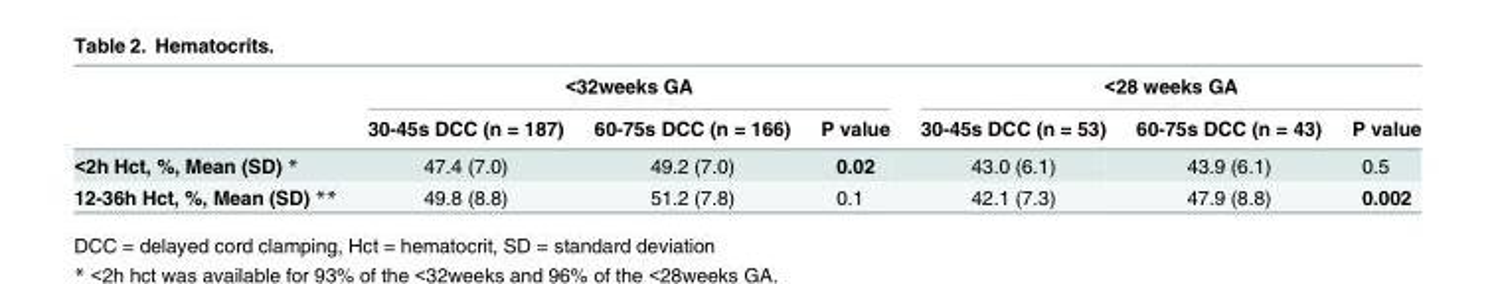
<table><thead><tr><td rowspan="2"></td><td colspan="3">&lt;32weeks GA</td><td colspan="3">&lt;28 weeks GA</td></tr><tr><td>30-45s DCC (n = 187)</td><td>60-75s DCC (n = 166)</td><td>P value</td><td>30-45s DCC (n = 53)</td><td>60-75s DCC (n = 43)</td><td>P value</td></tr></thead><tbody><tr><td>&lt;2h Hct, %, Mean (SD) *</td><td>47.4 (7.0)</td><td>49.2 (7.0)</td><td>0.02</td><td>43.0 (6.1)</td><td>43.9 (6.1)</td><td>0.5</td></tr><tr><td>12-36h Hct, %, Mean (SD) **</td><td>49.8 (8.8)</td><td>51.2 (7.8)</td><td>0.1</td><td>42.1 (7.3)</td><td>47.9 (8.8)</td><td>0.002</td></tr></tbody></table>